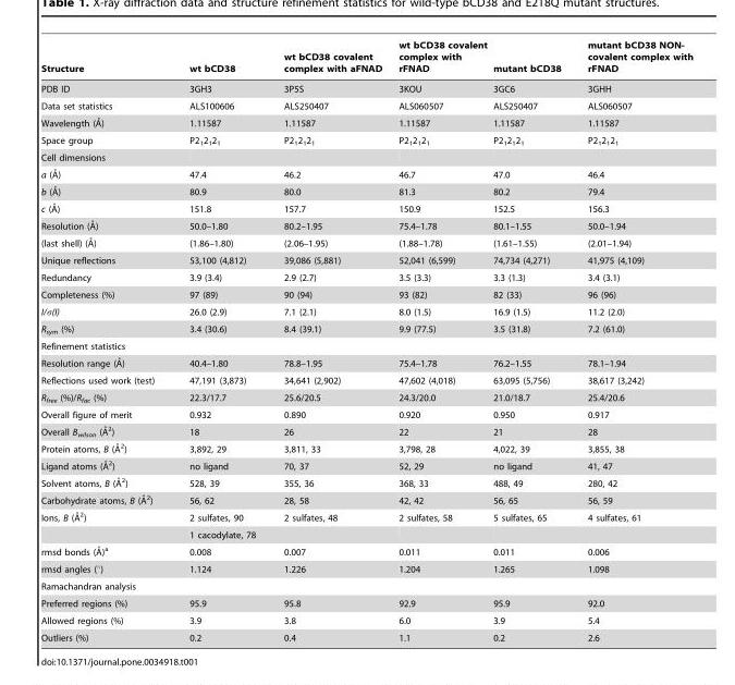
<table><thead><tr><td>Structure</td><td>wt bCD38</td><td>wt bCD38 covalent complex with aFNAD</td><td>wt bCD38 covalent complex with rFNAD</td><td>mutant bCD38</td><td>mutant bCD38 NON- covalent complex with rFNAD</td></tr></thead><tbody><tr><td>PDB ID</td><td>3GH3</td><td>3P5S</td><td>3KOU</td><td>3GC6</td><td>3GHH</td></tr><tr><td>Data set statistics</td><td>ALS100606</td><td>ALS250407</td><td>ALS060507</td><td>ALS250407</td><td>ALS060507</td></tr><tr><td>Wavelength (A˚)</td><td>1.11587</td><td>1.11587</td><td>1.11587</td><td>1.11587</td><td>1.11587</td></tr><tr><td>Space group</td><td>P2<sub>1</sub>2<sub>1</sub>2<sub>1</sub></td><td>P2<sub>1</sub>2<sub>1</sub>2<sub>1</sub></td><td>P2<sub>1</sub>2<sub>1</sub>2<sub>1</sub></td><td>P2<sub>1</sub>2<sub>1</sub>2<sub>1</sub></td><td>P2<sub>1</sub>2<sub>1</sub>2<sub>1</sub></td></tr><tr><td colspan="6">Cell dimensions</td></tr><tr><td>a (A˚)</td><td>47.4</td><td>46.2</td><td>46.7</td><td>47.0</td><td>46.4</td></tr><tr><td>b (A˚)</td><td>80.9</td><td>80.0</td><td>81.3</td><td>80.2</td><td>79.4</td></tr><tr><td>c (A˚)</td><td>151.8</td><td>157.7</td><td>150.9</td><td>152.5</td><td>156.3</td></tr><tr><td>Resolution (A˚)</td><td>50.0–1.80</td><td>80.2–1.95</td><td>75.4–1.78</td><td>80.1–1.55</td><td>50.0–1.94</td></tr><tr><td>(last shell) (A˚)</td><td>(1.86–1.80)</td><td>(2.06–1.95)</td><td>(1.88–1.78)</td><td>(1.61–1.55)</td><td>(2.01–1.94)</td></tr><tr><td>Unique reflections</td><td>53,100 (4,812)</td><td>39,086 (5,881)</td><td>52,041 (6,599)</td><td>74,734 (4,271)</td><td>41,975 (4,109)</td></tr><tr><td>Redundancy</td><td>3.9 (3.4)</td><td>2.9 (2.7)</td><td>3.5 (3.3)</td><td>3.3 (1.3)</td><td>3.4 (3.1)</td></tr><tr><td>Completeness (%)</td><td>97 (89)</td><td>90 (94)</td><td>93 (82)</td><td>82 (33)</td><td>96 (96)</td></tr><tr><td>I/σ(I)</td><td>26.0 (2.9)</td><td>7.1 (2.1)</td><td>8.0 (1.5)</td><td>16.9 (1.5)</td><td>11.2 (2.0)</td></tr><tr><td>R<sub>sym</sub> (%)</td><td>3.4 (30.6)</td><td>8.4 (39.1)</td><td>9.9 (77.5)</td><td>3.5 (31.8)</td><td>7.2 (61.0)</td></tr><tr><td colspan="6">Refinement statistics</td></tr><tr><td>Resolution range (A˚)</td><td>40.4–1.80</td><td>78.8–1.95</td><td>75.4–1.78</td><td>76.2–1.55</td><td>78.1–1.94</td></tr><tr><td>Reflections used work (test)</td><td>47,191 (3,873)</td><td>34,641 (2,902)</td><td>47,602 (4,018)</td><td>63,095 (5,756)</td><td>38,617 (3,242)</td></tr><tr><td>R<sub>free</sub> (%)/R<sub>fac</sub> (%)</td><td>22.3/17.7</td><td>25.6/20.5</td><td>24.3/20.0</td><td>21.0/18.7</td><td>25.4/20.6</td></tr><tr><td>Overall figure of merit</td><td>0.932</td><td>0.890</td><td>0.920</td><td>0.950</td><td>0.917</td></tr><tr><td>Overall Bwilson (A˚2)</td><td>18</td><td>26</td><td>22</td><td>21</td><td>28</td></tr><tr><td>Protein atoms, B (A˚ 2)</td><td>3,892, 29</td><td>3,811, 33</td><td>3,798, 28</td><td>4,022, 39</td><td>3,855, 38</td></tr><tr><td>Ligand atoms (A˚2)</td><td>no ligand</td><td>70, 37</td><td>52, 29</td><td>no ligand</td><td>41, 47</td></tr><tr><td>Solvent atoms, B (A˚ 2)</td><td>528, 39</td><td>355, 36</td><td>368, 33</td><td>488, 49</td><td>280, 42</td></tr><tr><td>Carbohydrate atoms, B (A˚2)</td><td>56, 62</td><td>28, 58</td><td>42, 42</td><td>56, 65</td><td>56, 59</td></tr><tr><td rowspan="2">Ions, B (A˚2)</td><td>2 sulfates, 90</td><td>2 sulfates, 48</td><td>2 sulfates, 58</td><td>5 sulfates, 65</td><td>4 sulfates, 61</td></tr><tr><td>1 cacodylate, 78</td><td></td><td></td><td></td><td></td></tr><tr><td>rmsd bonds (A˚)a</td><td>0.008</td><td>0.007</td><td>0.011</td><td>0.011</td><td>0.006</td></tr><tr><td>rmsd angles (°)</td><td>1.124</td><td>1.226</td><td>1.204</td><td>1.265</td><td>1.098</td></tr><tr><td colspan="6">Ramachandran analysis</td></tr><tr><td>Preferred regions (%)</td><td>95.9</td><td>95.8</td><td>92.9</td><td>95.9</td><td>92.0</td></tr><tr><td>Allowed regions (%)</td><td>3.9</td><td>3.8</td><td>6.0</td><td>3.9</td><td>5.4</td></tr><tr><td>Outliers (%)</td><td>0.2</td><td>0.4</td><td>1.1</td><td>0.2</td><td>2.6</td></tr></tbody></table>